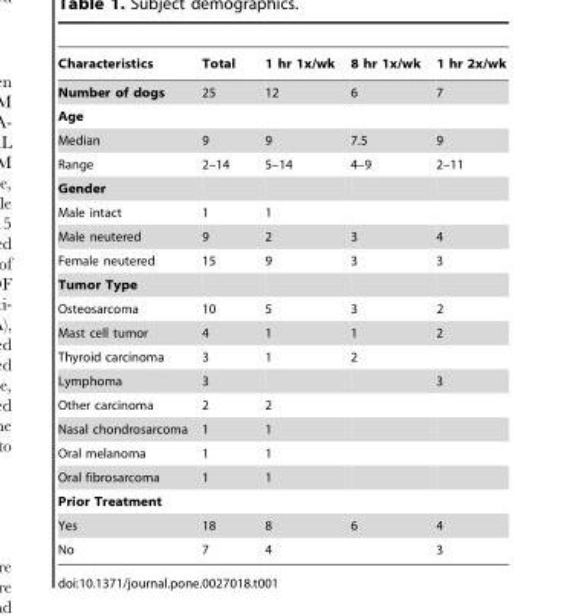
<table><thead><tr><td>Characteristics</td><td>Total</td><td>1 hr 1x/wk</td><td>8 hr 1x/wk</td><td>1 hr 2x/wk</td></tr></thead><tbody><tr><td>Number of dogs</td><td>25</td><td>12</td><td>6</td><td>7</td></tr><tr><td colspan="5">Age</td></tr><tr><td>Median</td><td>9</td><td>9</td><td>7.5</td><td>9</td></tr><tr><td>Range</td><td>2–14</td><td>5–14</td><td>4–9</td><td>2–11</td></tr><tr><td colspan="5">Gender</td></tr><tr><td>Male intact</td><td>1</td><td>1</td><td></td><td></td></tr><tr><td>Male neutered</td><td>9</td><td>2</td><td>3</td><td>4</td></tr><tr><td>Female neutered</td><td>15</td><td>9</td><td>3</td><td>3</td></tr><tr><td colspan="5">Tumor Type</td></tr><tr><td>Osteosarcoma</td><td>10</td><td>5</td><td>3</td><td>2</td></tr><tr><td>Mast cell tumor</td><td>4</td><td>1</td><td>1</td><td>2</td></tr><tr><td>Thyroid carcinoma</td><td>3</td><td>1</td><td>2</td><td></td></tr><tr><td>Lymphoma</td><td>3</td><td></td><td></td><td>3</td></tr><tr><td>Other carcinoma</td><td>2</td><td>2</td><td></td><td></td></tr><tr><td>Nasal chondrosarcoma</td><td>1</td><td>1</td><td></td><td></td></tr><tr><td>Oral melanoma</td><td>1</td><td>1</td><td></td><td></td></tr><tr><td>Oral fibrosarcoma</td><td>1</td><td>1</td><td></td><td></td></tr><tr><td colspan="5">Prior Treatment</td></tr><tr><td>Yes</td><td>18</td><td>8</td><td>6</td><td>4</td></tr><tr><td>No</td><td>7</td><td>4</td><td></td><td>3</td></tr></tbody></table>